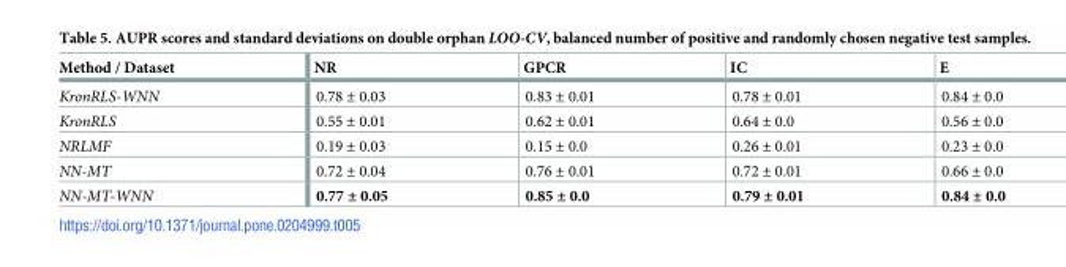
<table><thead><tr><td>Method / Dataset</td><td>NR</td><td>GPCR</td><td>IC</td><td>E</td></tr></thead><tbody><tr><td>KronRLS-WNN</td><td>0.78 ± 0.03</td><td>0.83 ± 0.01</td><td>0.78 ± 0.01</td><td>0.84 ± 0.0</td></tr><tr><td>KronRLS</td><td>0.55 ± 0.01</td><td>0.62 ± 0.01</td><td>0.64 ± 0.0</td><td>0.56 ± 0.0</td></tr><tr><td>NRLMF</td><td>0.19 ± 0.03</td><td>0.15 ± 0.0</td><td>0.26 ± 0.01</td><td>0.23 ± 0.0</td></tr><tr><td>NN-MT</td><td>0.72 ± 0.04</td><td>0.76 ± 0.01</td><td>0.72 ± 0.01</td><td>0.66 ± 0.0</td></tr><tr><td>NN-MT-WNN</td><td>0.77 ± 0.05</td><td>0.85 ± 0.0</td><td>0.79 ± 0.01</td><td>0.84 ± 0.0</td></tr></tbody></table>